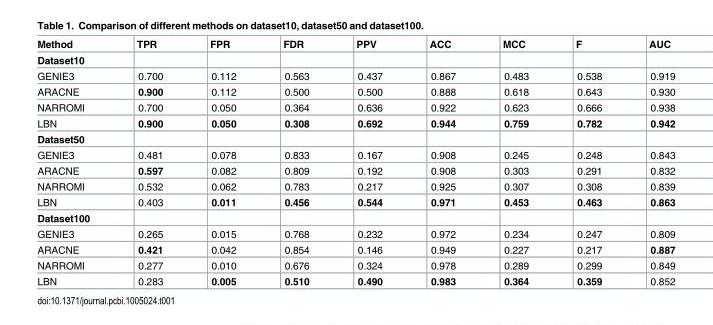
<table><thead><tr><td>Method</td><td>TPR</td><td>FPR</td><td>FDR</td><td>PPV</td><td>ACC</td><td>MCC</td><td>F</td><td>AUC</td></tr></thead><tbody><tr><td colspan="9">Dataset10</td></tr><tr><td>GENIE3</td><td>0.700</td><td>0.112</td><td>0.563</td><td>0.437</td><td>0.867</td><td>0.483</td><td>0.538</td><td>0.919</td></tr><tr><td>ARACNE</td><td>0.900</td><td>0.112</td><td>0.500</td><td>0.500</td><td>0.888</td><td>0.618</td><td>0.643</td><td>0.930</td></tr><tr><td>NARROMI</td><td>0.700</td><td>0.050</td><td>0.364</td><td>0.636</td><td>0.922</td><td>0.623</td><td>0.666</td><td>0.938</td></tr><tr><td>LBN</td><td>0.900</td><td>0.050</td><td>0.308</td><td>0.692</td><td>0.944</td><td>0.759</td><td>0.782</td><td>0.942</td></tr><tr><td colspan="9">Dataset50</td></tr><tr><td>GENIE3</td><td>0.481</td><td>0.078</td><td>0.833</td><td>0.167</td><td>0.908</td><td>0.245</td><td>0.248</td><td>0.843</td></tr><tr><td>ARACNE</td><td>0.597</td><td>0.082</td><td>0.809</td><td>0.192</td><td>0.908</td><td>0.303</td><td>0.291</td><td>0.832</td></tr><tr><td>NARROMI</td><td>0.532</td><td>0.062</td><td>0.783</td><td>0.217</td><td>0.925</td><td>0.307</td><td>0.308</td><td>0.839</td></tr><tr><td>LBN</td><td>0.403</td><td>0.011</td><td>0.456</td><td>0.544</td><td>0.971</td><td>0.453</td><td>0.463</td><td>0.863</td></tr><tr><td colspan="9">Dataset100</td></tr><tr><td>GENIE3</td><td>0.265</td><td>0.015</td><td>0.768</td><td>0.232</td><td>0.972</td><td>0.234</td><td>0.247</td><td>0.809</td></tr><tr><td>ARACNE</td><td>0.421</td><td>0.042</td><td>0.854</td><td>0.146</td><td>0.949</td><td>0.227</td><td>0.217</td><td>0.887</td></tr><tr><td>NARROMI</td><td>0.277</td><td>0.010</td><td>0.676</td><td>0.324</td><td>0.978</td><td>0.289</td><td>0.299</td><td>0.849</td></tr><tr><td>LBN</td><td>0.283</td><td>0.005</td><td>0.510</td><td>0.490</td><td>0.983</td><td>0.364</td><td>0.359</td><td>0.852</td></tr></tbody></table>